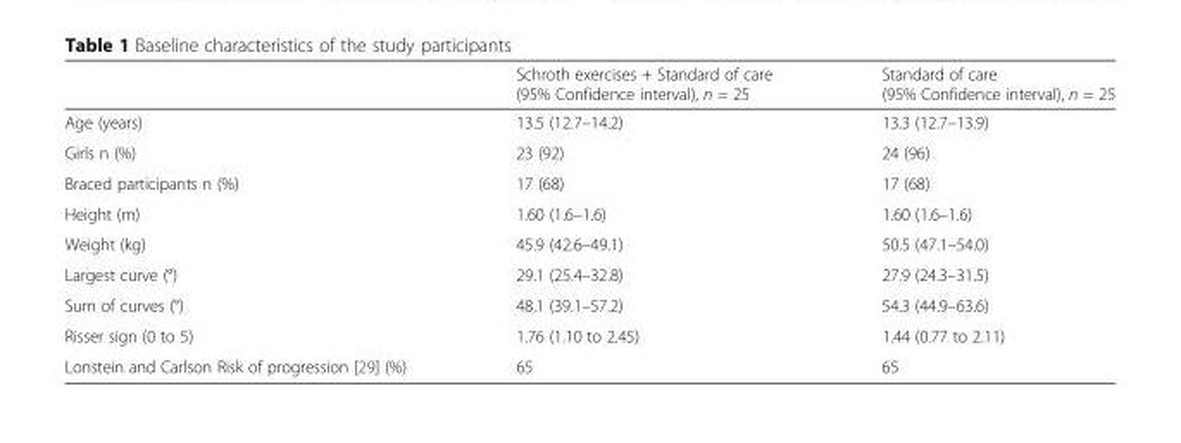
<table><thead><tr><td></td><td>Schroth exercises + Standard of care (95% Confidence interval), n = 25</td><td>Standard of care (95% Confidence interval), n = 25</td></tr></thead><tbody><tr><td>Age (years)</td><td>13.5 (12.7–14.2)</td><td>13.3 (12.7–13.9)</td></tr><tr><td>Girls n (%)</td><td>23 (92)</td><td>24 (96)</td></tr><tr><td>Braced participants n (%)</td><td>17 (68)</td><td>17 (68)</td></tr><tr><td>Height (m)</td><td>1.60 (1.6–1.6)</td><td>1.60 (1.6–1.6)</td></tr><tr><td>Weight (kg)</td><td>45.9 (42.6–49.1)</td><td>50.5 (47.1–54.0)</td></tr><tr><td>Largest curve (°)</td><td>29.1 (25.4–32.8)</td><td>27.9 (24.3–31.5)</td></tr><tr><td>Sum of curves (°)</td><td>48.1 (39.1–57.2)</td><td>54.3 (44.9–63.6)</td></tr><tr><td>Risser sign (0 to 5)</td><td>1.76 (1.10 to 2.45)</td><td>1.44 (0.77 to 2.11)</td></tr><tr><td>Lonstein and Carlson Risk of progression [29] (%)</td><td>65</td><td>65</td></tr></tbody></table>